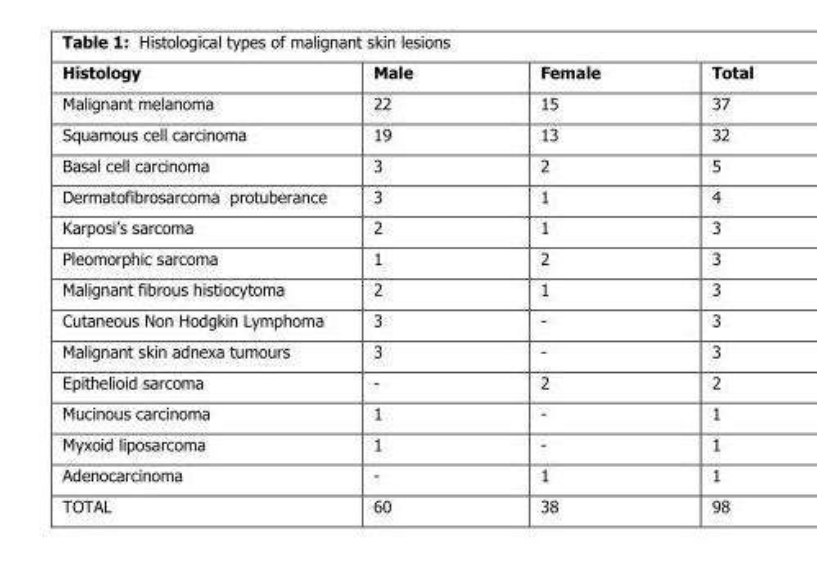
<table><thead><tr><td>Histology</td><td>Male</td><td>Female</td><td>Total</td></tr></thead><tbody><tr><td>Malignant melanoma</td><td>22</td><td>15</td><td>37</td></tr><tr><td>Squamous cell carcinoma</td><td>19</td><td>13</td><td>32</td></tr><tr><td>Basal cell carcinoma</td><td>3</td><td>2</td><td>5</td></tr><tr><td>Dermatofibrosarcoma protuberance</td><td>3</td><td>1</td><td>4</td></tr><tr><td>Karposi’s sarcoma</td><td>2</td><td>1</td><td>3</td></tr><tr><td>Pleomorphic sarcoma</td><td>1</td><td>2</td><td>3</td></tr><tr><td>Malignant fibrous histiocytoma</td><td>2</td><td>1</td><td>3</td></tr><tr><td>Cutaneous Non Hodgkin Lymphoma</td><td>3</td><td>-</td><td>3</td></tr><tr><td>Malignant skin adnexa tumours</td><td>3</td><td>-</td><td>3</td></tr><tr><td>Epithelioid sarcoma</td><td>-</td><td>2</td><td>2</td></tr><tr><td>Mucinous carcinoma</td><td>1</td><td>-</td><td>1</td></tr><tr><td>Myxoid liposarcoma</td><td>1</td><td>-</td><td>1</td></tr><tr><td>Adenocarcinoma</td><td>-</td><td>1</td><td>1</td></tr><tr><td>TOTAL</td><td>60</td><td>38</td><td>98</td></tr></tbody></table>